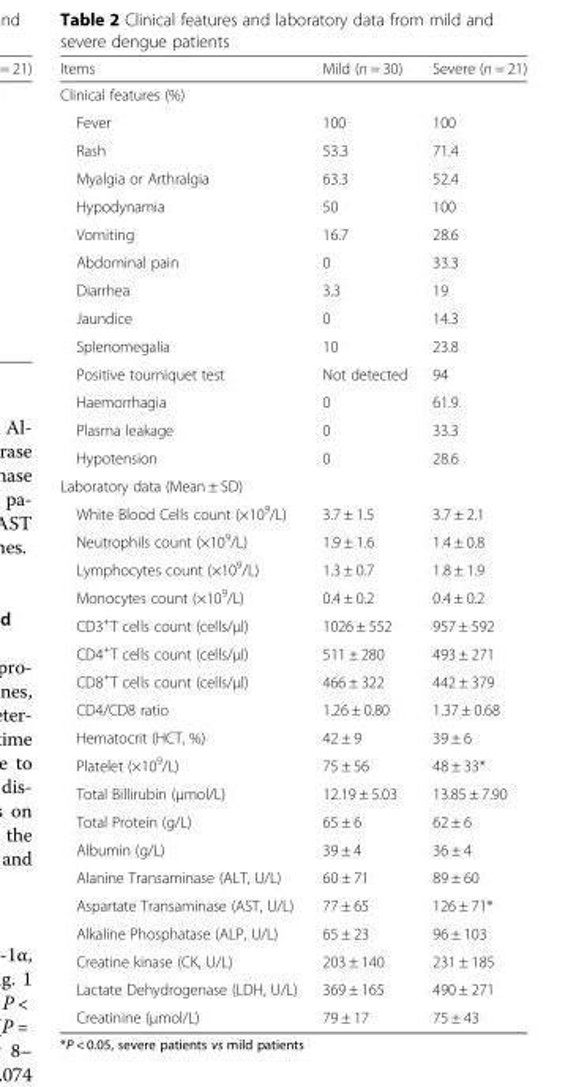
<table><thead><tr><td>Items</td><td>Mild (n = 30)</td><td>Severe (n = 21)</td></tr></thead><tbody><tr><td colspan="3">Clinical features (%)</td></tr><tr><td>Fever</td><td>100</td><td>100</td></tr><tr><td>Rash</td><td>53.3</td><td>71.4</td></tr><tr><td>Myalgia or Arthralgia</td><td>63.3</td><td>52.4</td></tr><tr><td>Hypodynamia</td><td>50</td><td>100</td></tr><tr><td>Vomiting</td><td>16.7</td><td>28.6</td></tr><tr><td>Abdominal pain</td><td>0</td><td>33.3</td></tr><tr><td>Diarrhea</td><td>3.3</td><td>19</td></tr><tr><td>Jaundice</td><td>0</td><td>14.3</td></tr><tr><td>Splenomegalia</td><td>10</td><td>23.8</td></tr><tr><td>Positive tourniquet test</td><td>Not detected</td><td>94</td></tr><tr><td>Haemorrhagia</td><td>0</td><td>61.9</td></tr><tr><td>Plasma leakage</td><td>0</td><td>33.3</td></tr><tr><td>Hypotension</td><td>0</td><td>28.6</td></tr><tr><td colspan="3">Laboratory data (Mean ± SD)</td></tr><tr><td>White Blood Cells count (×10<sup>9</sup>/L)</td><td>3.7 ± 1.5</td><td>3.7 ± 2.1</td></tr><tr><td>Neutrophils count (×10<sup>9</sup>/L)</td><td>1.9 ± 1.6</td><td>1.4 ± 0.8</td></tr><tr><td>Lymphocytes count (×10<sup>9</sup>/L)</td><td>1.3 ± 0.7</td><td>1.8 ± 1.9</td></tr><tr><td>Monocytes count (×10<sup>9</sup>/L)</td><td>0.4 ± 0.2</td><td>0.4 ± 0.2</td></tr><tr><td>CD3<sup>+</sup>T cells count (cells/μl)</td><td>1026 ± 552</td><td>957 ± 592</td></tr><tr><td>CD4<sup>+</sup>T cells count (cells/μl)</td><td>511 ± 280</td><td>493 ± 271</td></tr><tr><td>CD8<sup>+</sup>T cells count (cells/μl)</td><td>466 ± 322</td><td>442 ± 379</td></tr><tr><td>CD4/CD8 ratio</td><td>1.26 ± 0.80</td><td>1.37 ± 0.68</td></tr><tr><td>Hematocrit (HCT, %)</td><td>42 ± 9</td><td>39 ± 6</td></tr><tr><td>Platelet (×10<sup>9</sup>/L)</td><td>75 ± 56</td><td>48 ± 33*</td></tr><tr><td>Total Billirubin (μmol/L)</td><td>12.19 ± 5.03</td><td>13.85 ± 7.90</td></tr><tr><td>Total Protein (g/L)</td><td>65 ± 6</td><td>62 ± 6</td></tr><tr><td>Albumin (g/L)</td><td>39 ± 4</td><td>36 ± 4</td></tr><tr><td>Alanine Transaminase (ALT, U/L)</td><td>60 ± 71</td><td>89 ± 60</td></tr><tr><td>Aspartate Transaminase (AST, U/L)</td><td>77 ± 65</td><td>126 ± 71*</td></tr><tr><td>Alkaline Phosphatase (ALP, U/L)</td><td>65 ± 23</td><td>96 ± 103</td></tr><tr><td>Creatine kinase (CK, U/L)</td><td>203 ± 140</td><td>231 ± 185</td></tr><tr><td>Lactate Dehydrogenase (LDH, U/L)</td><td>369 ± 165</td><td>490 ± 271</td></tr><tr><td>Creatinine (μmol/L)</td><td>79 ± 17</td><td>75 ± 43</td></tr></tbody></table>